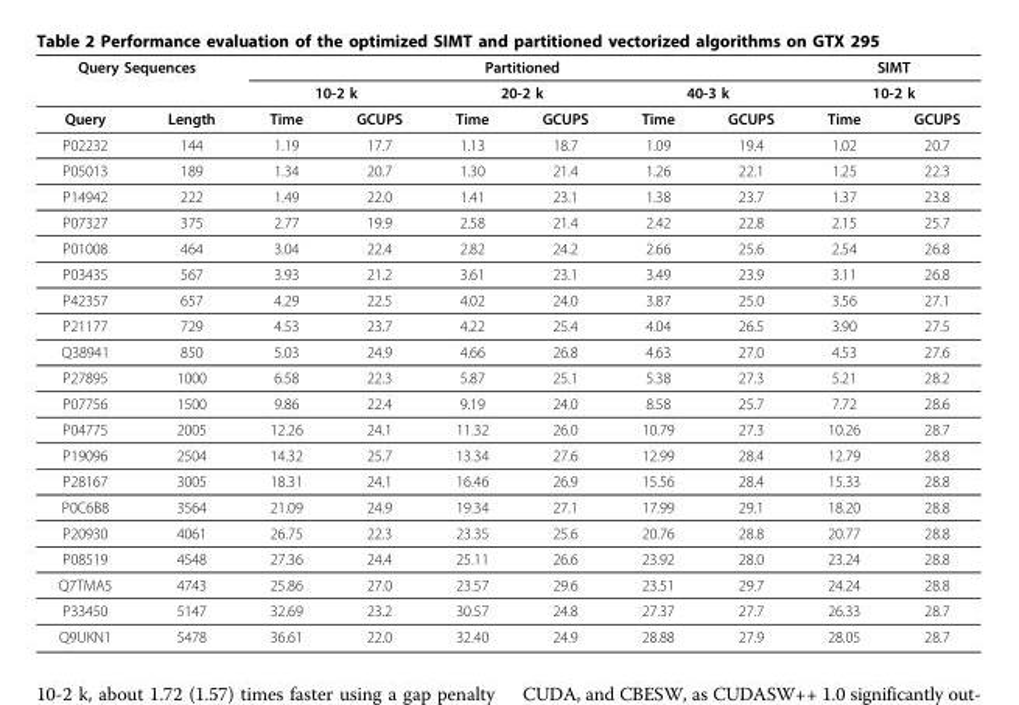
<table><thead><tr><td colspan="2">Query Sequences</td><td colspan="6">Partitioned</td><td rowspan="2" colspan="2">SIMT 10-2 k</td></tr><tr><td rowspan="2">Query</td><td rowspan="2">Length</td><td colspan="2">10-2 k</td><td colspan="2">20-2 k</td><td colspan="2">40-3 k</td></tr><tr><td>Time</td><td>GCUPS</td><td>Time</td><td>GCUPS</td><td>Time</td><td>GCUPS</td><td>Time</td><td>GCUPS</td></tr></thead><tbody><tr><td>P02232</td><td>144</td><td>1.19</td><td>17.7</td><td>1.13</td><td>18.7</td><td>1.09</td><td>19.4</td><td>1.02</td><td>20.7</td></tr><tr><td>P05013</td><td>189</td><td>1.34</td><td>20.7</td><td>1.30</td><td>21.4</td><td>1.26</td><td>22.1</td><td>1.25</td><td>22.3</td></tr><tr><td>P14942</td><td>222</td><td>1.49</td><td>22.0</td><td>1.41</td><td>23.1</td><td>1.38</td><td>23.7</td><td>1.37</td><td>23.8</td></tr><tr><td>P07327</td><td>375</td><td>2.77</td><td>19.9</td><td>2.58</td><td>21.4</td><td>2.42</td><td>22.8</td><td>2.15</td><td>25.7</td></tr><tr><td>P01008</td><td>464</td><td>3.04</td><td>22.4</td><td>2.82</td><td>24.2</td><td>2.66</td><td>25.6</td><td>2.54</td><td>26.8</td></tr><tr><td>P03435</td><td>567</td><td>3.93</td><td>21.2</td><td>3.61</td><td>23.1</td><td>3.49</td><td>23.9</td><td>3.11</td><td>26.8</td></tr><tr><td>P42357</td><td>657</td><td>4.29</td><td>22.5</td><td>4.02</td><td>24.0</td><td>3.87</td><td>25.0</td><td>3.56</td><td>27.1</td></tr><tr><td>P21177</td><td>729</td><td>4.53</td><td>23.7</td><td>4.22</td><td>25.4</td><td>4.04</td><td>26.5</td><td>3.90</td><td>27.5</td></tr><tr><td>Q38941</td><td>850</td><td>5.03</td><td>24.9</td><td>4.66</td><td>26.8</td><td>4.63</td><td>27.0</td><td>4.53</td><td>27.6</td></tr><tr><td>P27895</td><td>1000</td><td>6.58</td><td>22.3</td><td>5.87</td><td>25.1</td><td>5.38</td><td>27.3</td><td>5.21</td><td>28.2</td></tr><tr><td>P07756</td><td>1500</td><td>9.86</td><td>22.4</td><td>9.19</td><td>24.0</td><td>8.58</td><td>25.7</td><td>7.72</td><td>28.6</td></tr><tr><td>P04775</td><td>2005</td><td>12.26</td><td>24.1</td><td>11.32</td><td>26.0</td><td>10.79</td><td>27.3</td><td>10.26</td><td>28.7</td></tr><tr><td>P19096</td><td>2504</td><td>14.32</td><td>25.7</td><td>13.34</td><td>27.6</td><td>12.99</td><td>28.4</td><td>12.79</td><td>28.8</td></tr><tr><td>P28167</td><td>3005</td><td>18.31</td><td>24.1</td><td>16.46</td><td>26.9</td><td>15.56</td><td>28.4</td><td>15.33</td><td>28.8</td></tr><tr><td>P0C6B8</td><td>3564</td><td>21.09</td><td>24.9</td><td>19.34</td><td>27.1</td><td>17.99</td><td>29.1</td><td>18.20</td><td>28.8</td></tr><tr><td>P20930</td><td>4061</td><td>26.75</td><td>22.3</td><td>23.35</td><td>25.6</td><td>20.76</td><td>28.8</td><td>20.77</td><td>28.8</td></tr><tr><td>P08519</td><td>4548</td><td>27.36</td><td>24.4</td><td>25.11</td><td>26.6</td><td>23.92</td><td>28.0</td><td>23.24</td><td>28.8</td></tr><tr><td>Q7TMA5</td><td>4743</td><td>25.86</td><td>27.0</td><td>23.57</td><td>29.6</td><td>23.51</td><td>29.7</td><td>24.24</td><td>28.8</td></tr><tr><td>P33450</td><td>5147</td><td>32.69</td><td>23.2</td><td>30.57</td><td>24.8</td><td>27.37</td><td>27.7</td><td>26.33</td><td>28.7</td></tr><tr><td>Q9UKN1</td><td>5478</td><td>36.61</td><td>22.0</td><td>32.40</td><td>24.9</td><td>28.88</td><td>27.9</td><td>28.05</td><td>28.7</td></tr></tbody></table>